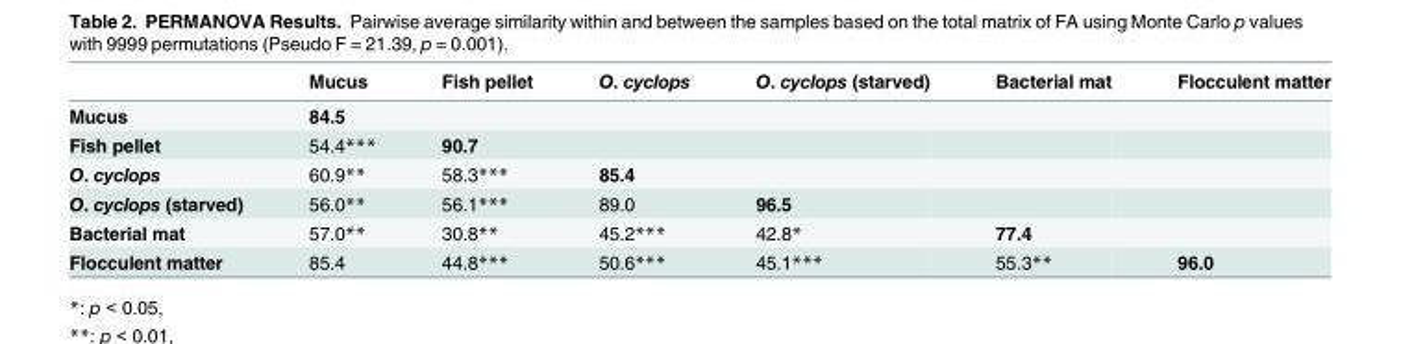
<table><thead><tr><td></td><td>Mucus</td><td>Fish pellet</td><td>O. cyclops</td><td>O. cyclops (starved)</td><td>Bacterial mat</td><td>Flocculent matter</td></tr></thead><tbody><tr><td>Mucus</td><td>84.5</td><td></td><td></td><td></td><td></td><td></td></tr><tr><td>Fish pellet</td><td>54.4***</td><td>90.7</td><td></td><td></td><td></td><td></td></tr><tr><td>O. cyclops</td><td>60.9**</td><td>58.3***</td><td>85.4</td><td></td><td></td><td></td></tr><tr><td>O. cyclops (starved)</td><td>56.0**</td><td>56.1***</td><td>89.0</td><td>96.5</td><td></td><td></td></tr><tr><td>Bacterial mat</td><td>57.0**</td><td>30.8**</td><td>45.2***</td><td>42.8*</td><td>77.4</td><td></td></tr><tr><td>Flocculent matter</td><td>85.4</td><td>44.8***</td><td>50.6***</td><td>45.1***</td><td>55.3**</td><td>96.0</td></tr></tbody></table>